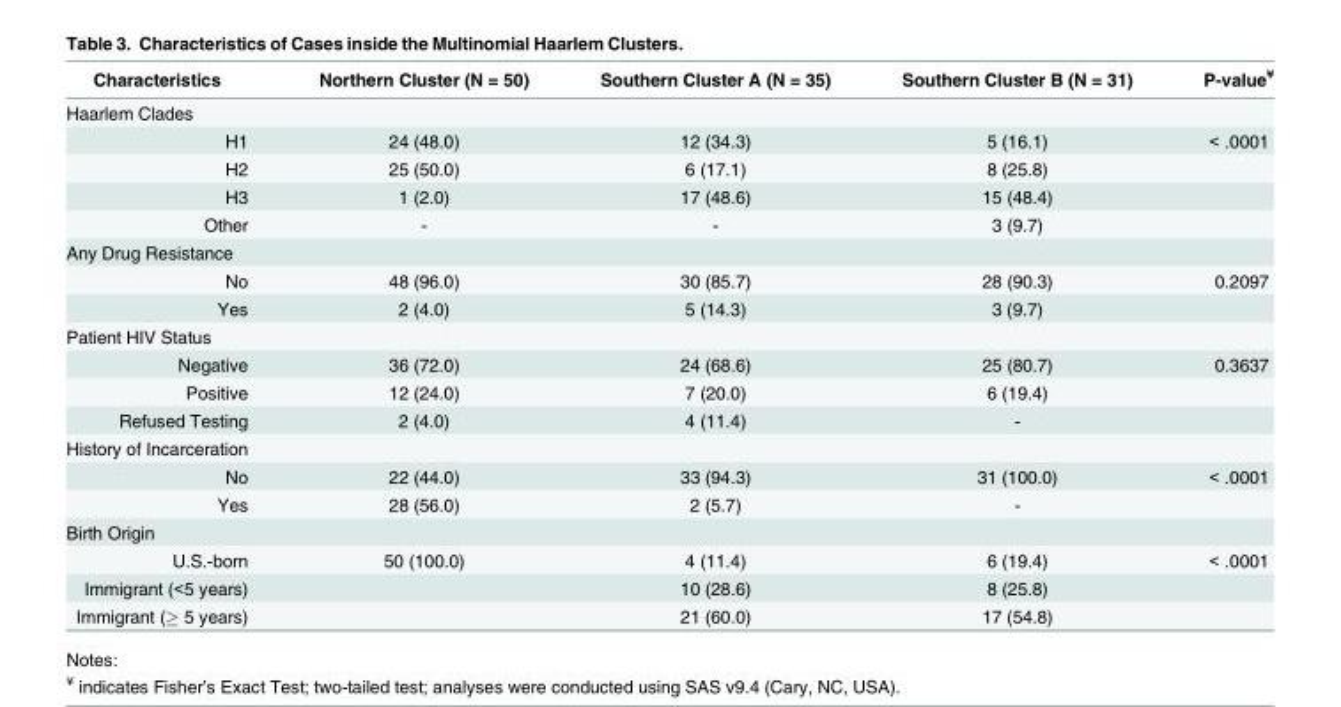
<table><thead><tr><td>Characteristics</td><td>Northern Cluster (N = 50)</td><td>Southern Cluster A (N = 35)</td><td>Southern Cluster B (N = 31)</td><td>P-value<sup>¥</sup></td></tr></thead><tbody><tr><td colspan="5">Haarlem Clades</td></tr><tr><td>H1</td><td>24 (48.0)</td><td>12 (34.3)</td><td>5 (16.1)</td><td>&lt; .0001</td></tr><tr><td>H2</td><td>25 (50.0)</td><td>6 (17.1)</td><td>8 (25.8)</td><td></td></tr><tr><td>H3</td><td>1 (2.0)</td><td>17 (48.6)</td><td>15 (48.4)</td><td></td></tr><tr><td>Other</td><td>-</td><td>-</td><td>3 (9.7)</td><td></td></tr><tr><td colspan="5">Any Drug Resistance</td></tr><tr><td>No</td><td>48 (96.0)</td><td>30 (85.7)</td><td>28 (90.3)</td><td>0.2097</td></tr><tr><td>Yes</td><td>2 (4.0)</td><td>5 (14.3)</td><td>3 (9.7)</td><td></td></tr><tr><td colspan="5">Patient HIV Status</td></tr><tr><td>Negative</td><td>36 (72.0)</td><td>24 (68.6)</td><td>25 (80.7)</td><td>0.3637</td></tr><tr><td>Positive</td><td>12 (24.0)</td><td>7 (20.0)</td><td>6 (19.4)</td><td></td></tr><tr><td>Refused Testing</td><td>2 (4.0)</td><td>4 (11.4)</td><td>-</td><td></td></tr><tr><td colspan="5">History of Incarceration</td></tr><tr><td>No</td><td>22 (44.0)</td><td>33 (94.3)</td><td>31 (100.0)</td><td>&lt; .0001</td></tr><tr><td>Yes</td><td>28 (56.0)</td><td>2 (5.7)</td><td>-</td><td></td></tr><tr><td colspan="5">Birth Origin</td></tr><tr><td>U.S.-born</td><td>50 (100.0)</td><td>4 (11.4)</td><td>6 (19.4)</td><td>&lt; .0001</td></tr><tr><td>Immigrant (&lt;5 years)</td><td></td><td>10 (28.6)</td><td>8 (25.8)</td><td></td></tr><tr><td>Immigrant (≥ 5 years)</td><td></td><td>21 (60.0)</td><td>17 (54.8)</td><td></td></tr></tbody></table>